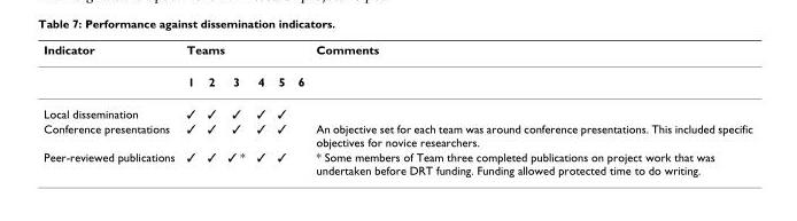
<table><thead><tr><td rowspan="2">Indicator</td><td colspan="6">Teams</td><td rowspan="2">Comments</td></tr><tr><td>1</td><td>2</td><td>3</td><td>4</td><td>5</td><td>6</td></tr></thead><tbody><tr><td>Local dissemination</td><td>✓</td><td>✓</td><td>✓</td><td>✓</td><td>✓</td><td></td><td></td></tr><tr><td>Conference presentations</td><td>✓</td><td>✓</td><td>✓</td><td>✓</td><td>✓</td><td></td><td>An objective set for each team was around conference presentations. This included specific objectives for novice researchers.</td></tr><tr><td>Peer-reviewed publications</td><td>✓</td><td>✓</td><td>✓ *</td><td>✓</td><td>✓</td><td></td><td>* Some members of Team three completed publications on project work that was undertaken before DRT funding. Funding allowed protected time to do writing.</td></tr></tbody></table>